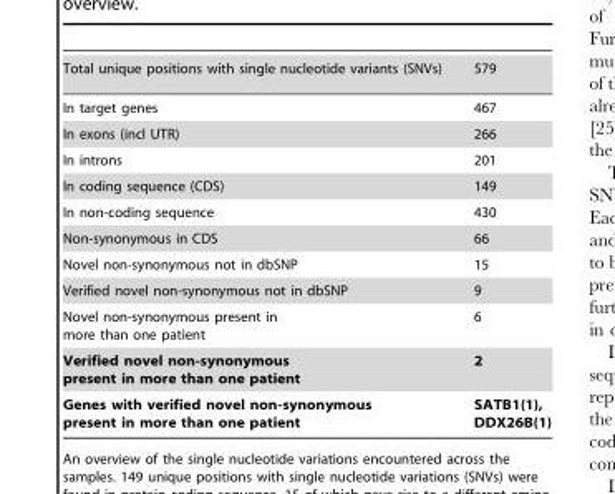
<table><tbody><tr><td>Total unique positions with single nucleotide variants (SNVs)</td><td>579</td></tr><tr><td>In target genes</td><td>467</td></tr><tr><td>In exons (incl UTR)</td><td>266</td></tr><tr><td>In introns</td><td>201</td></tr><tr><td>In coding sequence (CDS)</td><td>149</td></tr><tr><td>In non-coding sequence</td><td>430</td></tr><tr><td>Non-synonymous in CDS</td><td>66</td></tr><tr><td>Novel non-synonymous not in dbSNP</td><td>15</td></tr><tr><td>Verified novel non-synonymous not in dbSNP</td><td>9</td></tr><tr><td>Novel non-synonymous present in more than one patient</td><td>6</td></tr><tr><td>Verified novel non-synonymous present in more than one patient</td><td>2</td></tr><tr><td>Genes with verified novel non-synonymous present in more than one patient</td><td>SATB1(1), DDX26B(1)</td></tr></tbody></table>